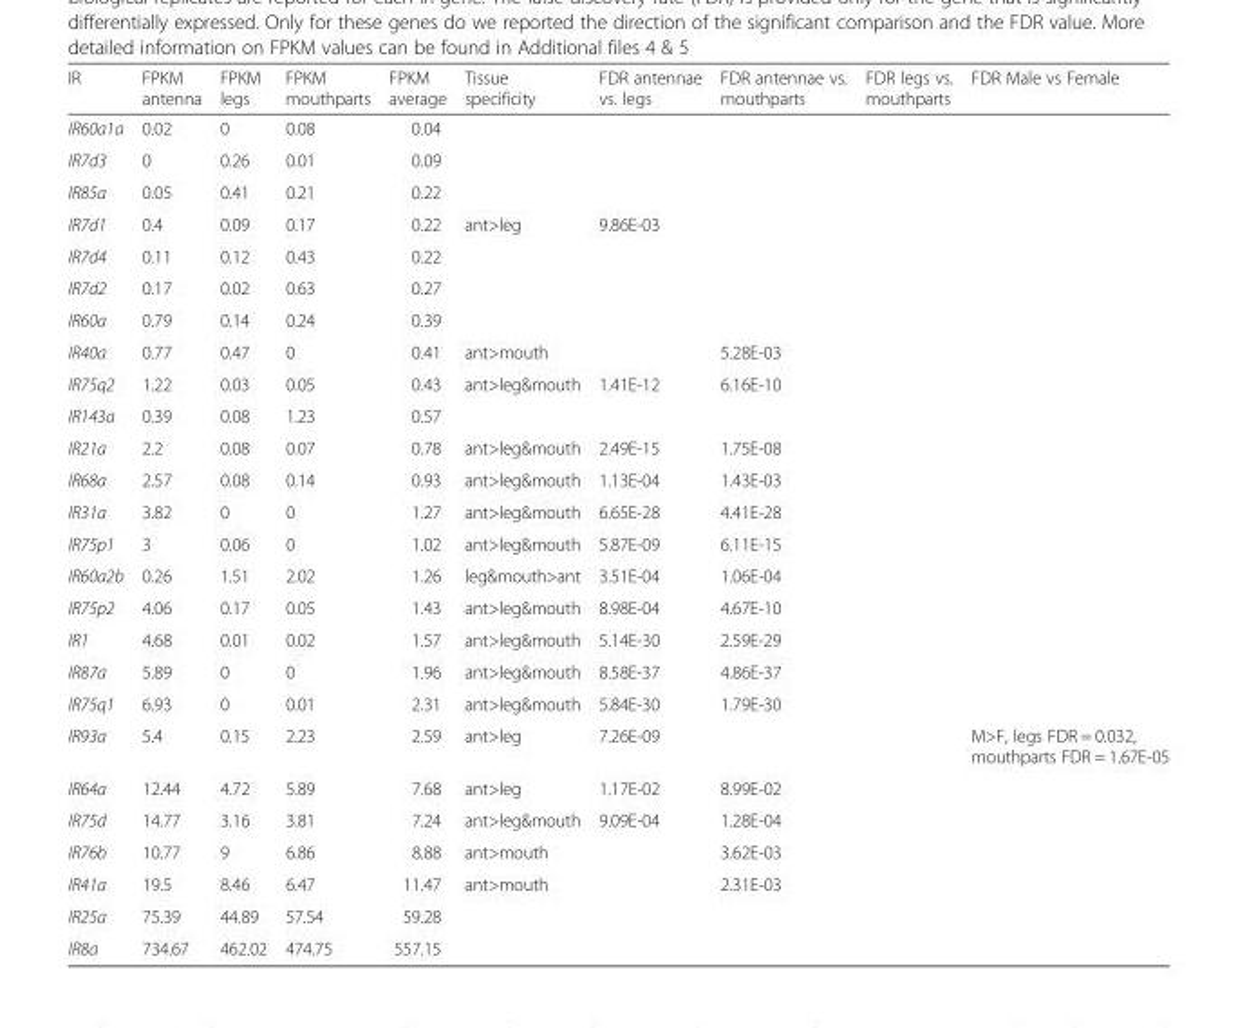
<table><thead><tr><td>IR</td><td>FPKM antenna</td><td>FPKM legs</td><td>FPKM mouthparts</td><td>FPKM average</td><td>Tissue specificity</td><td>FDR antennae vs. legs</td><td>FDR antennae vs. mouthparts</td><td>FDR legs vs. mouthparts</td><td>FDR Male vs Female</td></tr></thead><tbody><tr><td>IR60a1a</td><td>0.02</td><td>0</td><td>0.08</td><td>0.04</td><td></td><td></td><td></td><td></td><td></td></tr><tr><td>IR7d3</td><td>0</td><td>0.26</td><td>0.01</td><td>0.09</td><td></td><td></td><td></td><td></td><td></td></tr><tr><td>IR85a</td><td>0.05</td><td>0.41</td><td>0.21</td><td>0.22</td><td></td><td></td><td></td><td></td><td></td></tr><tr><td>IR7d1</td><td>0.4</td><td>0.09</td><td>0.17</td><td>0.22</td><td>ant&gt;leg</td><td>9.86E-03</td><td></td><td></td><td></td></tr><tr><td>IR7d4</td><td>0.11</td><td>0.12</td><td>0.43</td><td>0.22</td><td></td><td></td><td></td><td></td><td></td></tr><tr><td>IR7d2</td><td>0.17</td><td>0.02</td><td>0.63</td><td>0.27</td><td></td><td></td><td></td><td></td><td></td></tr><tr><td>IR60a</td><td>0.79</td><td>0.14</td><td>0.24</td><td>0.39</td><td></td><td></td><td></td><td></td><td></td></tr><tr><td>IR40a</td><td>0.77</td><td>0.47</td><td>0</td><td>0.41</td><td>ant&gt;mouth</td><td></td><td>5.28E-03</td><td></td><td></td></tr><tr><td>IR75q2</td><td>1.22</td><td>0.03</td><td>0.05</td><td>0.43</td><td>ant&gt;leg&amp;mouth</td><td>1.41E-12</td><td>6.16E-10</td><td></td><td></td></tr><tr><td>IR143a</td><td>0.39</td><td>0.08</td><td>1.23</td><td>0.57</td><td></td><td></td><td></td><td></td><td></td></tr><tr><td>IR21a</td><td>2.2</td><td>0.08</td><td>0.07</td><td>0.78</td><td>ant&gt;leg&amp;mouth</td><td>2.49E-15</td><td>1.75E-08</td><td></td><td></td></tr><tr><td>IR68a</td><td>2.57</td><td>0.08</td><td>0.14</td><td>0.93</td><td>ant&gt;leg&amp;mouth</td><td>1.13E-04</td><td>1.43E-03</td><td></td><td></td></tr><tr><td>IR31a</td><td>3.82</td><td>0</td><td>0</td><td>1.27</td><td>ant&gt;leg&amp;mouth</td><td>6.65E-28</td><td>4.41E-28</td><td></td><td></td></tr><tr><td>IR75p1</td><td>3</td><td>0.06</td><td>0</td><td>1.02</td><td>ant&gt;leg&amp;mouth</td><td>5.87E-09</td><td>6.11E-15</td><td></td><td></td></tr><tr><td>IR60a2b</td><td>0.26</td><td>1.51</td><td>2.02</td><td>1.26</td><td>leg&amp;mouth&gt;ant</td><td>3.51E-04</td><td>1.06E-04</td><td></td><td></td></tr><tr><td>IR75p2</td><td>4.06</td><td>0.17</td><td>0.05</td><td>1.43</td><td>ant&gt;leg&amp;mouth</td><td>8.98E-04</td><td>4.67E-10</td><td></td><td></td></tr><tr><td>IR1</td><td>4.68</td><td>0.01</td><td>0.02</td><td>1.57</td><td>ant&gt;leg&amp;mouth</td><td>5.14E-30</td><td>2.59E-29</td><td></td><td></td></tr><tr><td>IR87a</td><td>5.89</td><td>0</td><td>0</td><td>1.96</td><td>ant&gt;leg&amp;mouth</td><td>8.58E-37</td><td>4.86E-37</td><td></td><td></td></tr><tr><td>IR75q1</td><td>6.93</td><td>0</td><td>0.01</td><td>2.31</td><td>ant&gt;leg&amp;mouth</td><td>5.84E-30</td><td>1.79E-30</td><td></td><td></td></tr><tr><td>IR93a</td><td>5.4</td><td>0.15</td><td>2.23</td><td>2.59</td><td>ant&gt;leg</td><td>7.26E-09</td><td></td><td></td><td>M&gt;F, legs FDR = 0.032, mouthparts FDR = 1.67E-05</td></tr><tr><td>IR64a</td><td>12.44</td><td>4.72</td><td>5.89</td><td>7.68</td><td>ant&gt;leg</td><td>1.17E-02</td><td>8.99E-02</td><td></td><td></td></tr><tr><td>IR75d</td><td>14.77</td><td>3.16</td><td>3.81</td><td>7.24</td><td>ant&gt;leg&amp;mouth</td><td>9.09E-04</td><td>1.28E-04</td><td></td><td></td></tr><tr><td>IR76b</td><td>10.77</td><td>9</td><td>6.86</td><td>8.88</td><td>ant&gt;mouth</td><td></td><td>3.62E-03</td><td></td><td></td></tr><tr><td>IR41a</td><td>19.5</td><td>8.46</td><td>6.47</td><td>11.47</td><td>ant&gt;mouth</td><td></td><td>2.31E-03</td><td></td><td></td></tr><tr><td>IR25a</td><td>75.39</td><td>44.89</td><td>57.54</td><td>59.28</td><td></td><td></td><td></td><td></td><td></td></tr><tr><td>IR8a</td><td>734.67</td><td>462.02</td><td>474.75</td><td>557.15</td><td></td><td></td><td></td><td></td><td></td></tr></tbody></table>